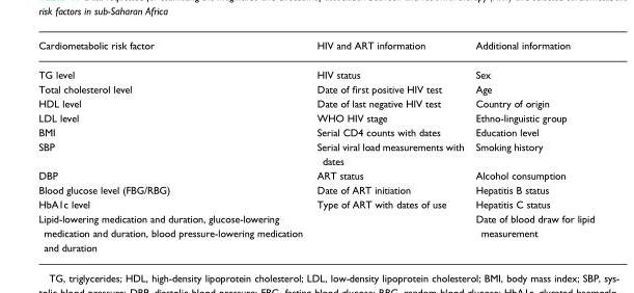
<table><thead><tr><td>Cardiometabolic risk factor</td><td>HIV and ART information</td><td>Additional information</td></tr></thead><tbody><tr><td>TG level</td><td>HIV status</td><td>Sex</td></tr><tr><td>Total cholesterol level</td><td>Date of first positive HIV test</td><td>Age</td></tr><tr><td>HDL level</td><td>Date of last negative HIV test</td><td>Country of origin</td></tr><tr><td>LDL level</td><td>WHO HIV stage</td><td>Ethno-linguistic group</td></tr><tr><td>BMI</td><td>Serial CD4 counts with dates</td><td>Education level</td></tr><tr><td>SBP</td><td>Serial viral load measurements with dates</td><td>Smoking history</td></tr><tr><td>DBP</td><td>ART status</td><td>Alcohol consumption</td></tr><tr><td>Blood glucose level (FBG/RBG)</td><td>Date of ART initiation</td><td>Hepatitis B status</td></tr><tr><td>HbA1c level</td><td>Type of ART with dates of use</td><td>Hepatitis C status</td></tr><tr><td>Lipid-lowering medication and duration, glucose-lowering medication and duration, blood pressure-lowering medication and duration</td><td></td><td>Date of blood draw for lipid measurement</td></tr></tbody></table>